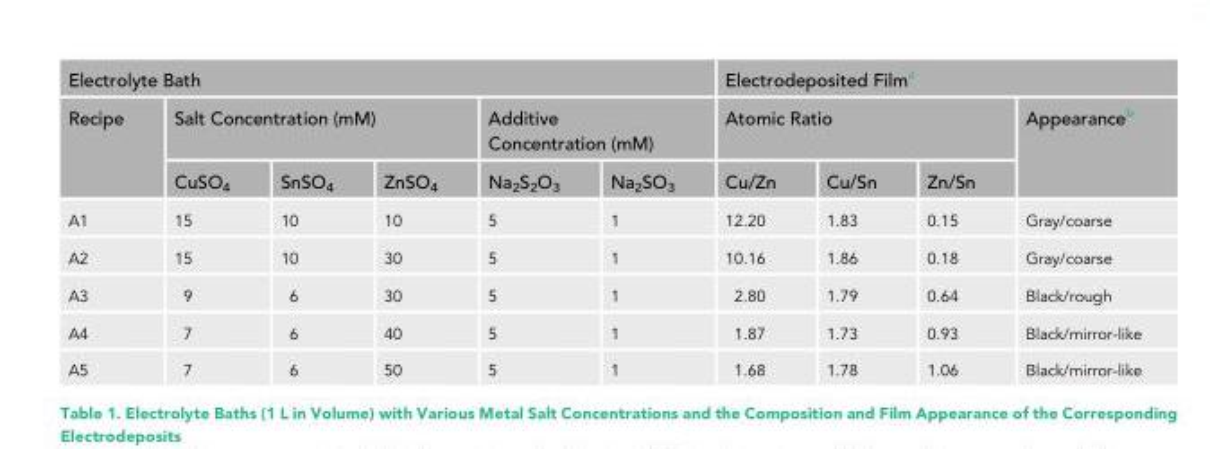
<table><thead><tr><td colspan="6">Electrolyte Bath</td><td colspan="4">Electrodeposited Film<sup>a</sup></td></tr><tr><td rowspan="2">Recipe</td><td colspan="3">Salt Concentration (mM)</td><td colspan="2">Additive Concentration (mM)</td><td colspan="3">Atomic Ratio</td><td rowspan="2">Appearance<sup>b</sup></td></tr><tr><td>CuSO<sub>4</sub></td><td>SnSO<sub>4</sub></td><td>ZnSO<sub>4</sub></td><td>Na<sub>2</sub>S<sub>2</sub>O<sub>3</sub></td><td>Na<sub>2</sub>SO<sub>3</sub></td><td>Cu/Zn</td><td>Cu/Sn</td><td>Zn/Sn</td></tr></thead><tbody><tr><td>A1</td><td>15</td><td>10</td><td>10</td><td>5</td><td>1</td><td>12.20</td><td>1.83</td><td>0.15</td><td>Gray/coarse</td></tr><tr><td>A2</td><td>15</td><td>10</td><td>30</td><td>5</td><td>1</td><td>10.16</td><td>1.86</td><td>0.18</td><td>Gray/coarse</td></tr><tr><td>A3</td><td>9</td><td>6</td><td>30</td><td>5</td><td>1</td><td>2.80</td><td>1.79</td><td>0.64</td><td>Black/rough</td></tr><tr><td>A4</td><td>7</td><td>6</td><td>40</td><td>5</td><td>1</td><td>1.87</td><td>1.73</td><td>0.93</td><td>Black/mirror-like</td></tr><tr><td>A5</td><td>7</td><td>6</td><td>50</td><td>5</td><td>1</td><td>1.68</td><td>1.78</td><td>1.06</td><td>Black/mirror-like</td></tr></tbody></table>